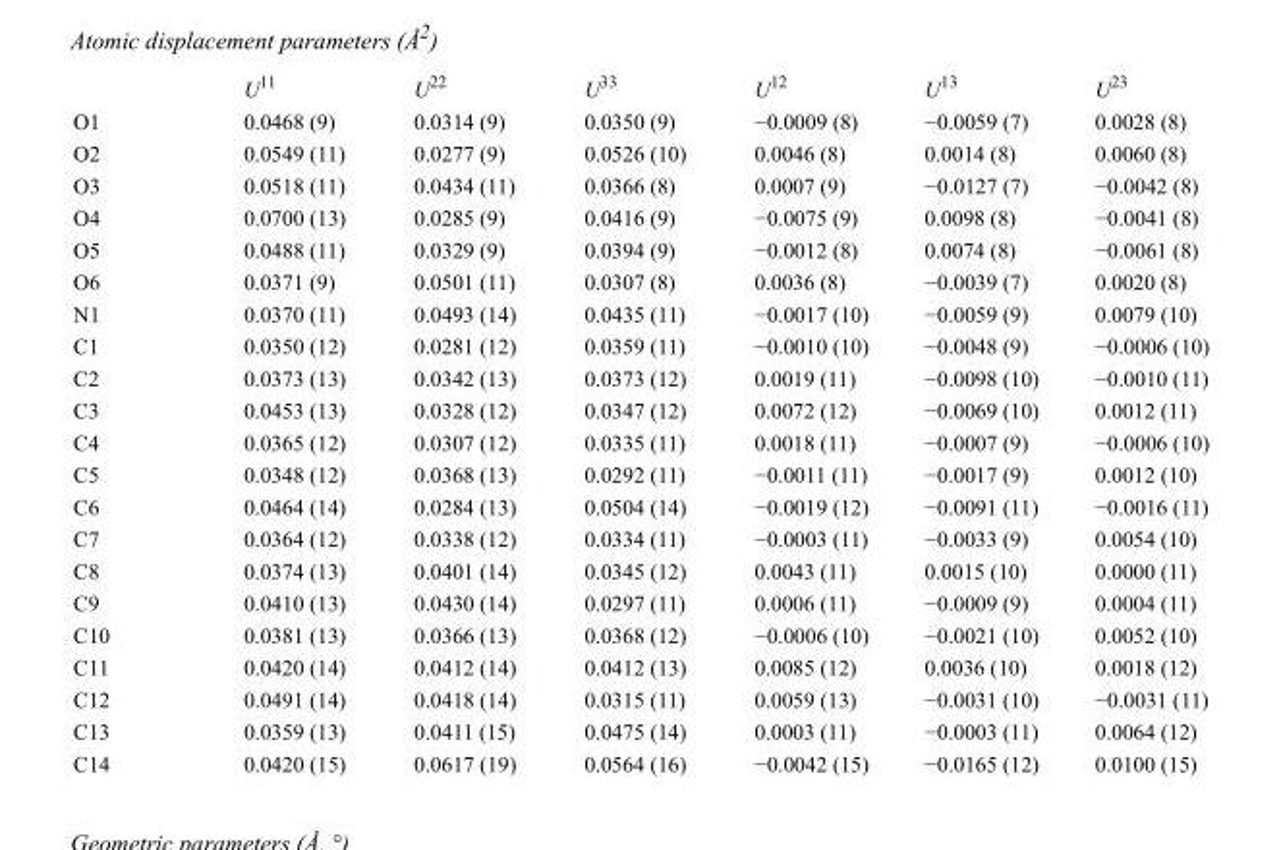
<table><thead><tr><td></td><td>U<sup>11</sup></td><td>U<sup>22</sup></td><td>U<sup>33</sup></td><td>U<sup>12</sup></td><td>U<sup>13</sup></td><td>U<sup>23</sup></td></tr></thead><tbody><tr><td>O1</td><td>0.0468 (9)</td><td>0.0314 (9)</td><td>0.0350 (9)</td><td>−0.0009 (8)</td><td>−0.0059 (7)</td><td>0.0028 (8)</td></tr><tr><td>O2</td><td>0.0549 (11)</td><td>0.0277 (9)</td><td>0.0526 (10)</td><td>0.0046 (8)</td><td>0.0014 (8)</td><td>0.0060 (8)</td></tr><tr><td>O3</td><td>0.0518 (11)</td><td>0.0434 (11)</td><td>0.0366 (8)</td><td>0.0007 (9)</td><td>−0.0127 (7)</td><td>−0.0042 (8)</td></tr><tr><td>O4</td><td>0.0700 (13)</td><td>0.0285 (9)</td><td>0.0416 (9)</td><td>−0.0075 (9)</td><td>0.0098 (8)</td><td>−0.0041 (8)</td></tr><tr><td>O5</td><td>0.0488 (11)</td><td>0.0329 (9)</td><td>0.0394 (9)</td><td>−0.0012 (8)</td><td>0.0074 (8)</td><td>−0.0061 (8)</td></tr><tr><td>O6</td><td>0.0371 (9)</td><td>0.0501 (11)</td><td>0.0307 (8)</td><td>0.0036 (8)</td><td>−0.0039 (7)</td><td>0.0020 (8)</td></tr><tr><td>N1</td><td>0.0370 (11)</td><td>0.0493 (14)</td><td>0.0435 (11)</td><td>−0.0017 (10)</td><td>−0.0059 (9)</td><td>0.0079 (10)</td></tr><tr><td>C1</td><td>0.0350 (12)</td><td>0.0281 (12)</td><td>0.0359 (11)</td><td>−0.0010 (10)</td><td>−0.0048 (9)</td><td>−0.0006 (10)</td></tr><tr><td>C2</td><td>0.0373 (13)</td><td>0.0342 (13)</td><td>0.0373 (12)</td><td>0.0019 (11)</td><td>−0.0098 (10)</td><td>−0.0010 (11)</td></tr><tr><td>C3</td><td>0.0453 (13)</td><td>0.0328 (12)</td><td>0.0347 (12)</td><td>0.0072 (12)</td><td>−0.0069 (10)</td><td>0.0012 (11)</td></tr><tr><td>C4</td><td>0.0365 (12)</td><td>0.0307 (12)</td><td>0.0335 (11)</td><td>0.0018 (11)</td><td>−0.0007 (9)</td><td>−0.0006 (10)</td></tr><tr><td>C5</td><td>0.0348 (12)</td><td>0.0368 (13)</td><td>0.0292 (11)</td><td>−0.0011 (11)</td><td>−0.0017 (9)</td><td>0.0012 (10)</td></tr><tr><td>C6</td><td>0.0464 (14)</td><td>0.0284 (13)</td><td>0.0504 (14)</td><td>−0.0019 (12)</td><td>−0.0091 (11)</td><td>−0.0016 (11)</td></tr><tr><td>C7</td><td>0.0364 (12)</td><td>0.0338 (12)</td><td>0.0334 (11)</td><td>−0.0003 (11)</td><td>−0.0033 (9)</td><td>0.0054 (10)</td></tr><tr><td>C8</td><td>0.0374 (13)</td><td>0.0401 (14)</td><td>0.0345 (12)</td><td>0.0043 (11)</td><td>0.0015 (10)</td><td>0.0000 (11)</td></tr><tr><td>C9</td><td>0.0410 (13)</td><td>0.0430 (14)</td><td>0.0297 (11)</td><td>0.0006 (11)</td><td>−0.0009 (9)</td><td>0.0004 (11)</td></tr><tr><td>C10</td><td>0.0381 (13)</td><td>0.0366 (13)</td><td>0.0368 (12)</td><td>−0.0006 (10)</td><td>−0.0021 (10)</td><td>0.0052 (10)</td></tr><tr><td>C11</td><td>0.0420 (14)</td><td>0.0412 (14)</td><td>0.0412 (13)</td><td>0.0085 (12)</td><td>0.0036 (10)</td><td>0.0018 (12)</td></tr><tr><td>C12</td><td>0.0491 (14)</td><td>0.0418 (14)</td><td>0.0315 (11)</td><td>0.0059 (13)</td><td>−0.0031 (10)</td><td>−0.0031 (11)</td></tr><tr><td>C13</td><td>0.0359 (13)</td><td>0.0411 (15)</td><td>0.0475 (14)</td><td>0.0003 (11)</td><td>−0.0003 (11)</td><td>0.0064 (12)</td></tr><tr><td>C14</td><td>0.0420 (15)</td><td>0.0617 (19)</td><td>0.0564 (16)</td><td>−0.0042 (15)</td><td>−0.0165 (12)</td><td>0.0100 (15)</td></tr></tbody></table>